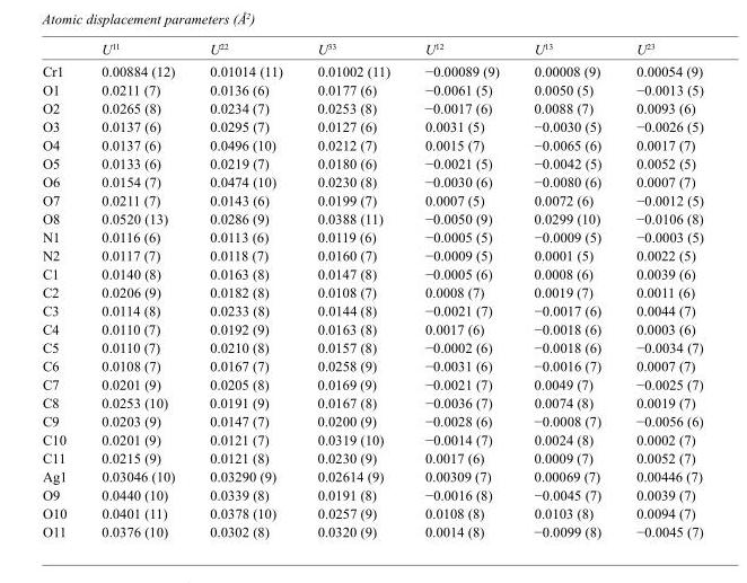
<table><thead><tr><td></td><td>U<sup>11</sup></td><td>U<sup>22</sup></td><td>U<sup>33</sup></td><td>U<sup>12</sup></td><td>U<sup>13</sup></td><td>U<sup>23</sup></td></tr></thead><tbody><tr><td>Cr1</td><td>0.00884 (12)</td><td>0.01014 (11)</td><td>0.01002 (11)</td><td>−0.00089 (9)</td><td>0.00008 (9)</td><td>0.00054 (9)</td></tr><tr><td>O1</td><td>0.0211 (7)</td><td>0.0136 (6)</td><td>0.0177 (6)</td><td>−0.0061 (5)</td><td>0.0050 (5)</td><td>−0.0013 (5)</td></tr><tr><td>O2</td><td>0.0265 (8)</td><td>0.0234 (7)</td><td>0.0253 (8)</td><td>−0.0017 (6)</td><td>0.0088 (7)</td><td>0.0093 (6)</td></tr><tr><td>O3</td><td>0.0137 (6)</td><td>0.0295 (7)</td><td>0.0127 (6)</td><td>0.0031 (5)</td><td>−0.0030 (5)</td><td>−0.0026 (5)</td></tr><tr><td>O4</td><td>0.0137 (6)</td><td>0.0496 (10)</td><td>0.0212 (7)</td><td>0.0015 (7)</td><td>−0.0065 (6)</td><td>0.0017 (7)</td></tr><tr><td>O5</td><td>0.0133 (6)</td><td>0.0219 (7)</td><td>0.0180 (6)</td><td>−0.0021 (5)</td><td>−0.0042 (5)</td><td>0.0052 (5)</td></tr><tr><td>O6</td><td>0.0154 (7)</td><td>0.0474 (10)</td><td>0.0230 (8)</td><td>−0.0030 (6)</td><td>−0.0080 (6)</td><td>0.0007 (7)</td></tr><tr><td>O7</td><td>0.0211 (7)</td><td>0.0143 (6)</td><td>0.0199 (7)</td><td>0.0007 (5)</td><td>0.0072 (6)</td><td>−0.0012 (5)</td></tr><tr><td>O8</td><td>0.0520 (13)</td><td>0.0286 (9)</td><td>0.0388 (11)</td><td>−0.0050 (9)</td><td>0.0299 (10)</td><td>−0.0106 (8)</td></tr><tr><td>N1</td><td>0.0116 (6)</td><td>0.0113 (6)</td><td>0.0119 (6)</td><td>−0.0005 (5)</td><td>−0.0009 (5)</td><td>−0.0003 (5)</td></tr><tr><td>N2</td><td>0.0117 (7)</td><td>0.0118 (7)</td><td>0.0160 (7)</td><td>−0.0009 (5)</td><td>0.0001 (5)</td><td>0.0022 (5)</td></tr><tr><td>C1</td><td>0.0140 (8)</td><td>0.0163 (8)</td><td>0.0147 (8)</td><td>−0.0005 (6)</td><td>0.0008 (6)</td><td>0.0039 (6)</td></tr><tr><td>C2</td><td>0.0206 (9)</td><td>0.0182 (8)</td><td>0.0108 (7)</td><td>0.0008 (7)</td><td>0.0019 (7)</td><td>0.0011 (6)</td></tr><tr><td>C3</td><td>0.0114 (8)</td><td>0.0233 (8)</td><td>0.0144 (8)</td><td>−0.0021 (7)</td><td>−0.0017 (6)</td><td>0.0044 (7)</td></tr><tr><td>C4</td><td>0.0110 (7)</td><td>0.0192 (9)</td><td>0.0163 (8)</td><td>0.0017 (6)</td><td>−0.0018 (6)</td><td>0.0003 (6)</td></tr><tr><td>C5</td><td>0.0110 (7)</td><td>0.0210 (8)</td><td>0.0157 (8)</td><td>−0.0002 (6)</td><td>−0.0018 (6)</td><td>−0.0034 (7)</td></tr><tr><td>C6</td><td>0.0108 (7)</td><td>0.0167 (7)</td><td>0.0258 (9)</td><td>−0.0031 (6)</td><td>−0.0016 (7)</td><td>0.0007 (7)</td></tr><tr><td>C7</td><td>0.0201 (9)</td><td>0.0205 (8)</td><td>0.0169 (9)</td><td>−0.0021 (7)</td><td>0.0049 (7)</td><td>−0.0025 (7)</td></tr><tr><td>C8</td><td>0.0253 (10)</td><td>0.0191 (9)</td><td>0.0167 (8)</td><td>−0.0036 (7)</td><td>0.0074 (8)</td><td>0.0019 (7)</td></tr><tr><td>C9</td><td>0.0203 (9)</td><td>0.0147 (7)</td><td>0.0200 (9)</td><td>−0.0028 (6)</td><td>−0.0008 (7)</td><td>−0.0056 (6)</td></tr><tr><td>C10</td><td>0.0201 (9)</td><td>0.0121 (7)</td><td>0.0319 (10)</td><td>−0.0014 (7)</td><td>0.0024 (8)</td><td>0.0002 (7)</td></tr><tr><td>C11</td><td>0.0215 (9)</td><td>0.0121 (8)</td><td>0.0230 (9)</td><td>0.0017 (6)</td><td>0.0009 (7)</td><td>0.0052 (7)</td></tr><tr><td>Ag1</td><td>0.03046 (10)</td><td>0.03290 (9)</td><td>0.02614 (9)</td><td>0.00309 (7)</td><td>0.00069 (7)</td><td>0.00446 (7)</td></tr><tr><td>O9</td><td>0.0440 (10)</td><td>0.0339 (8)</td><td>0.0191 (8)</td><td>−0.0016 (8)</td><td>−0.0045 (7)</td><td>0.0039 (7)</td></tr><tr><td>O10</td><td>0.0401 (11)</td><td>0.0378 (10)</td><td>0.0257 (9)</td><td>0.0108 (8)</td><td>0.0103 (8)</td><td>0.0094 (7)</td></tr><tr><td>O11</td><td>0.0376 (10)</td><td>0.0302 (8)</td><td>0.0320 (9)</td><td>0.0014 (8)</td><td>−0.0099 (8)</td><td>−0.0045 (7)</td></tr></tbody></table>